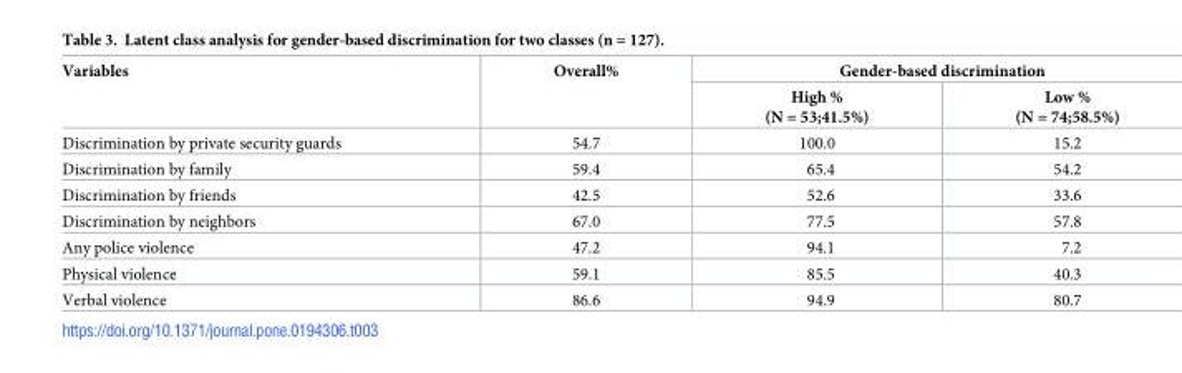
<table><thead><tr><td rowspan="2">Variables</td><td rowspan="2">Overall%</td><td colspan="2">Gender-based discrimination</td></tr><tr><td>High % (N = 53;41.5%)</td><td>Low % (N = 74;58.5%)</td></tr></thead><tbody><tr><td>Discrimination by private security guards</td><td>54.7</td><td>100.0</td><td>15.2</td></tr><tr><td>Discrimination by family</td><td>59.4</td><td>65.4</td><td>54.2</td></tr><tr><td>Discrimination by friends</td><td>42.5</td><td>52.6</td><td>33.6</td></tr><tr><td>Discrimination by neighbors</td><td>67.0</td><td>77.5</td><td>57.8</td></tr><tr><td>Any police violence</td><td>47.2</td><td>94.1</td><td>7.2</td></tr><tr><td>Physical violence</td><td>59.1</td><td>85.5</td><td>40.3</td></tr><tr><td>Verbal violence</td><td>86.6</td><td>94.9</td><td>80.7</td></tr></tbody></table>